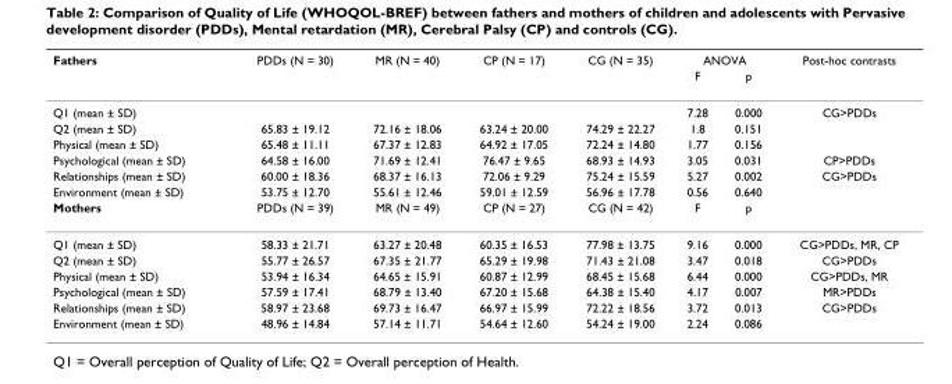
<table><thead><tr><td rowspan="2">Fathers</td><td rowspan="2">PDDs (N = 30)</td><td rowspan="2">MR (N = 40)</td><td rowspan="2">CP (N = 17)</td><td rowspan="2">CG (N = 35)</td><td colspan="2">ANOVA</td><td rowspan="2">Post-hoc contrasts</td></tr><tr><td>F</td><td>p</td></tr></thead><tbody><tr><td>Q1 (mean ± SD)</td><td></td><td></td><td></td><td></td><td>7.28</td><td>0.000</td><td>CG&gt;PDDs</td></tr><tr><td>Q2 (mean ± SD)</td><td>65.83 ± 19.12</td><td>72.16 ± 18.06</td><td>63.24 ± 20.00</td><td>74.29 ± 22.27</td><td>1.8</td><td>0.151</td><td></td></tr><tr><td>Physical (mean ± SD)</td><td>65.48 ± 11.11</td><td>67.37 ± 12.83</td><td>64.92 ± 17.05</td><td>72.24 ± 14.80</td><td>1.77</td><td>0.156</td><td></td></tr><tr><td>Psychological (mean ± SD)</td><td>64.58 ± 16.00</td><td>71.69 ± 12.41</td><td>76.47 ± 9.65</td><td>68.93 ± 14.93</td><td>3.05</td><td>0.031</td><td>CP&gt;PDDs</td></tr><tr><td>Relationships (mean ± SD)</td><td>60.00 ± 18.36</td><td>68.37 ± 16.13</td><td>72.06 ± 9.29</td><td>75.24 ± 15.59</td><td>5.27</td><td>0.002</td><td>CG&gt;PDDs</td></tr><tr><td>Environment (mean ± SD)</td><td>53.75 ± 12.70</td><td>55.61 ± 12.46</td><td>59.01 ± 12.59</td><td>56.96 ± 17.78</td><td>0.56</td><td>0.640</td><td></td></tr><tr><td>Mothers</td><td>PDDs (N = 39)</td><td>MR (N = 49)</td><td>CP (N = 27)</td><td>CG (N = 42)</td><td>F</td><td>p</td><td></td></tr><tr><td>Q1 (mean ± SD)</td><td>58.33 ± 21.71</td><td>63.27 ± 20.48</td><td>60.35 ± 16.53</td><td>77.98 ± 13.75</td><td>9.16</td><td>0.000</td><td>CG&gt;PDDs, MR, CP</td></tr><tr><td>Q2 (mean ± SD)</td><td>55.77 ± 26.57</td><td>67.35 ± 21.77</td><td>65.29 ± 19.98</td><td>71.43 ± 21.08</td><td>3.47</td><td>0.018</td><td>CG&gt;PDDs</td></tr><tr><td>Physical (mean ± SD)</td><td>53.94 ± 16.34</td><td>64.65 ± 15.91</td><td>60.87 ± 12.99</td><td>68.45 ± 15.68</td><td>6.44</td><td>0.000</td><td>CG&gt;PDDs, MR</td></tr><tr><td>Psychological (mean ± SD)</td><td>57.59 ± 17.41</td><td>68.79 ± 13.40</td><td>67.20 ± 15.68</td><td>64.38 ± 15.40</td><td>4.17</td><td>0.007</td><td>MR&gt;PDDs</td></tr><tr><td>Relationships (mean ± SD)</td><td>58.97 ± 23.68</td><td>69.73 ± 16.47</td><td>66.97 ± 15.99</td><td>72.22 ± 18.56</td><td>3.72</td><td>0.013</td><td>CG&gt;PDDs</td></tr><tr><td>Environment (mean ± SD)</td><td>48.96 ± 14.84</td><td>57.14 ± 11.71</td><td>54.64 ± 12.60</td><td>54.24 ± 19.00</td><td>2.24</td><td>0.086</td><td></td></tr></tbody></table>